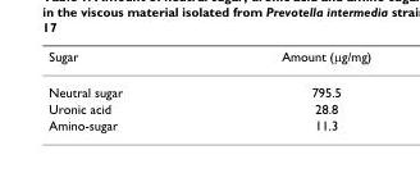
<table><thead><tr><td>Sugar</td><td>Amount (μg/mg)</td></tr></thead><tbody><tr><td>Neutral sugar</td><td>795.5</td></tr><tr><td>Uronic acid</td><td>28.8</td></tr><tr><td>Amino-sugar</td><td>11.3</td></tr></tbody></table>